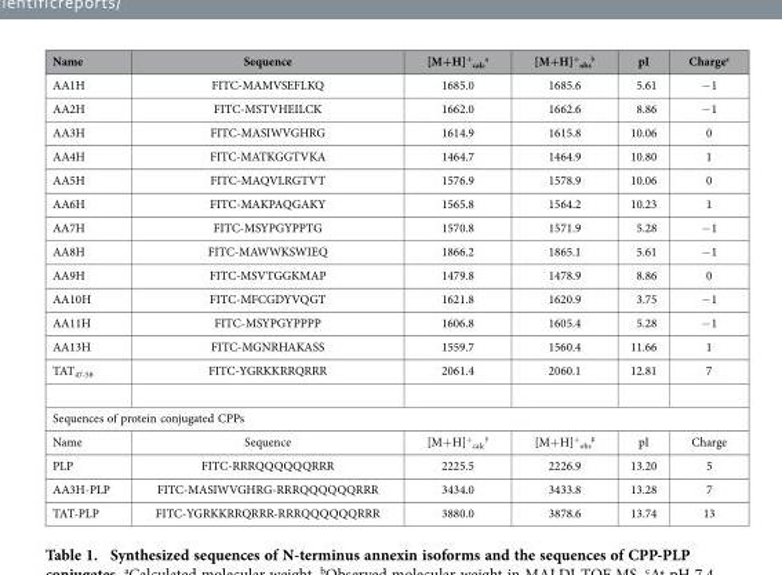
<table><thead><tr><td>Name</td><td>Sequence</td><td>[M+H]<sup>+</sup> <sub>calc</sub> <sup>a</sup></td><td>[M+H]<sup>+</sup> <sub>obs</sub> <sup>b</sup></td><td>pI</td><td>Charge<sup>c</sup></td></tr></thead><tbody><tr><td>AA1H</td><td>FITC-MAMVSEFLKQ</td><td>1685.0</td><td>1685.6</td><td>5.61</td><td>− 1</td></tr><tr><td>AA2H</td><td>FITC-MSTVHEILCK</td><td>1662.0</td><td>1662.6</td><td>8.86</td><td>− 1</td></tr><tr><td>AA3H</td><td>FITC-MASIWVGHRG</td><td>1614.9</td><td>1615.8</td><td>10.06</td><td>0</td></tr><tr><td>AA4H</td><td>FITC-MATKGGTVKA</td><td>1464.7</td><td>1464.9</td><td>10.80</td><td>1</td></tr><tr><td>AA5H</td><td>FITC-MAQVLRGTVT</td><td>1576.9</td><td>1578.9</td><td>10.06</td><td>0</td></tr><tr><td>AA6H</td><td>FITC-MAKPAQGAKY</td><td>1565.8</td><td>1564.2</td><td>10.23</td><td>1</td></tr><tr><td>AA7H</td><td>FITC-MSYPGYPPTG</td><td>1570.8</td><td>1571.9</td><td>5.28</td><td>− 1</td></tr><tr><td>AA8H</td><td>FITC-MAWWKSWIEQ</td><td>1866.2</td><td>1865.1</td><td>5.61</td><td>− 1</td></tr><tr><td>AA9H</td><td>FITC-MSVTGGKMAP</td><td>1479.8</td><td>1478.9</td><td>8.86</td><td>0</td></tr><tr><td>AA10H</td><td>FITC-MFCGDYVQGT</td><td>1621.8</td><td>1620.9</td><td>3.75</td><td>− 1</td></tr><tr><td>AA11H</td><td>FITC-MSYPGYPPPP</td><td>1606.8</td><td>1605.4</td><td>5.28</td><td>− 1</td></tr><tr><td>AA13H</td><td>FITC-MGNRHAKASS</td><td>1559.7</td><td>1560.4</td><td>11.66</td><td>1</td></tr><tr><td>TAT<sub>47-58</sub></td><td>FITC-YGRKKRRQRRR</td><td>2061.4</td><td>2060.1</td><td>12.81</td><td>7</td></tr><tr><td colspan="6">Sequences of protein conjugated CPPs</td></tr><tr><td>Name</td><td>Sequence</td><td>[M+ H]<sup>+</sup> <sub>calc</sub> <sup>†</sup></td><td>[M+ H]<sup>+</sup> <sub>obs</sub> <sup>‡</sup></td><td>pI</td><td>Charge</td></tr><tr><td>PLP</td><td>FITC-RRRQQQQQQRRR</td><td>2225.5</td><td>2226.9</td><td>13.20</td><td>5</td></tr><tr><td>AA3H-PLP</td><td>FITC-MASIWVGHRG-RRRQQQQQQRRR</td><td>3434.0</td><td>3433.8</td><td>13.28</td><td>7</td></tr><tr><td>TAT-PLP</td><td>FITC-YGRKKRRQRRR-RRRQQQQQQRRR</td><td>3880.0</td><td>3878.6</td><td>13.74</td><td>13</td></tr></tbody></table>